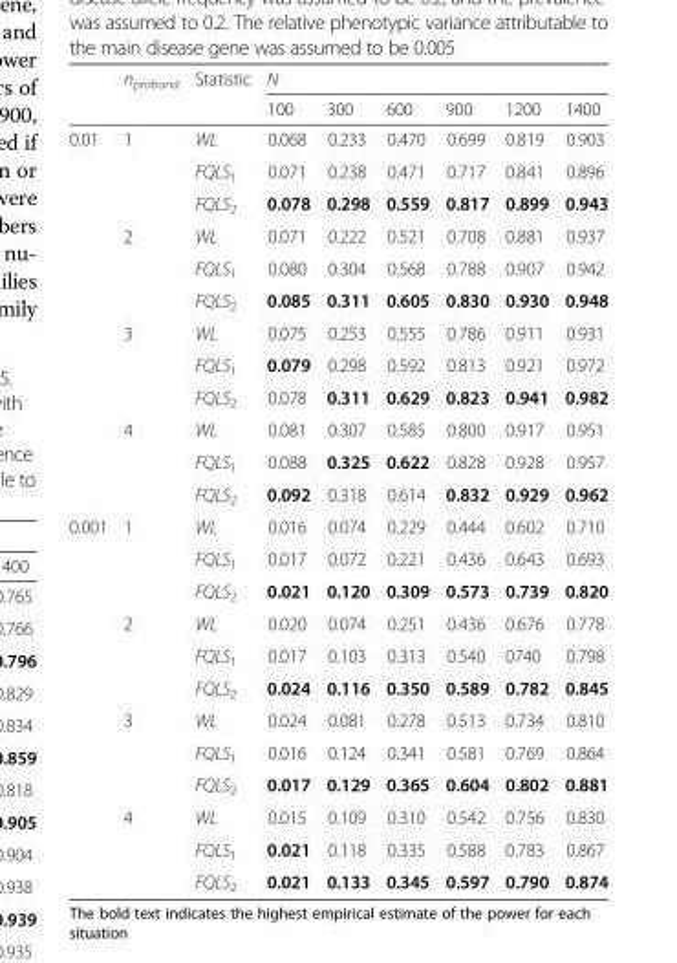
<table><thead><tr><td rowspan="2"></td><td rowspan="2">n<sub>proband</sub></td><td rowspan="2">Statistic</td><td colspan="6">N</td></tr><tr><td>100</td><td>300</td><td>600</td><td>900</td><td>1200</td><td>1400</td></tr></thead><tbody><tr><td rowspan="12">0.01</td><td rowspan="3">1</td><td>WL</td><td>0.068</td><td>0.233</td><td>0.470</td><td>0.699</td><td>0.819</td><td>0.903</td></tr><tr><td>FQLS<sub>1</sub></td><td>0.071</td><td>0.238</td><td>0.471</td><td>0.717</td><td>0.841</td><td>0.896</td></tr><tr><td>FQLS<sub>2</sub></td><td>0.078</td><td>0.298</td><td>0.559</td><td>0.817</td><td>0.899</td><td>0.943</td></tr><tr><td rowspan="3">2</td><td>WL</td><td>0.071</td><td>0.222</td><td>0.521</td><td>0.708</td><td>0.881</td><td>0.937</td></tr><tr><td>FQLS<sub>1</sub></td><td>0.080</td><td>0.304</td><td>0.568</td><td>0.788</td><td>0.907</td><td>0.942</td></tr><tr><td>FQLS<sub>2</sub></td><td>0.085</td><td>0.311</td><td>0.605</td><td>0.830</td><td>0.930</td><td>0.948</td></tr><tr><td rowspan="3">3</td><td>WL</td><td>0.075</td><td>0.253</td><td>0.555</td><td>0.786</td><td>0.911</td><td>0.931</td></tr><tr><td>FQLS<sub>1</sub></td><td>0.079</td><td>0.298</td><td>0.592</td><td>0.813</td><td>0.921</td><td>0.972</td></tr><tr><td>FQLS<sub>2</sub></td><td>0.078</td><td>0.311</td><td>0.629</td><td>0.823</td><td>0.941</td><td>0.982</td></tr><tr><td rowspan="3">4</td><td>WL</td><td>0.081</td><td>0.307</td><td>0.585</td><td>0.800</td><td>0.917</td><td>0.951</td></tr><tr><td>FQLS<sub>1</sub></td><td>0.088</td><td>0.325</td><td>0.622</td><td>0.828</td><td>0.928</td><td>0.957</td></tr><tr><td>FQLS<sub>2</sub></td><td>0.092</td><td>0.318</td><td>0.614</td><td>0.832</td><td>0.929</td><td>0.962</td></tr><tr><td rowspan="12">0.001</td><td rowspan="3">1</td><td>WL</td><td>0.016</td><td>0.074</td><td>0.229</td><td>0.444</td><td>0.602</td><td>0.710</td></tr><tr><td>FQLS<sub>1</sub></td><td>0.017</td><td>0.072</td><td>0.221</td><td>0.436</td><td>0.643</td><td>0.693</td></tr><tr><td>FQLS<sub>2</sub></td><td>0.021</td><td>0.120</td><td>0.309</td><td>0.573</td><td>0.739</td><td>0.820</td></tr><tr><td rowspan="3">2</td><td>WL</td><td>0.020</td><td>0.074</td><td>0.251</td><td>0.436</td><td>0.676</td><td>0.778</td></tr><tr><td>FQLS<sub>1</sub></td><td>0.017</td><td>0.103</td><td>0.313</td><td>0.540</td><td>0740</td><td>0.798</td></tr><tr><td>FQLS<sub>2</sub></td><td>0.024</td><td>0.116</td><td>0.350</td><td>0.589</td><td>0.782</td><td>0.845</td></tr><tr><td rowspan="3">3</td><td>WL</td><td>0.024</td><td>0.081</td><td>0.278</td><td>0.513</td><td>0.734</td><td>0.810</td></tr><tr><td>FQLS<sub>1</sub></td><td>0.016</td><td>0.124</td><td>0.341</td><td>0.581</td><td>0.769</td><td>0.864</td></tr><tr><td>FQLS<sub>2</sub></td><td>0.017</td><td>0.129</td><td>0.365</td><td>0.604</td><td>0.802</td><td>0.881</td></tr><tr><td rowspan="3">4</td><td>WL</td><td>0.015</td><td>0.109</td><td>0.310</td><td>0.542</td><td>0.756</td><td>0.830</td></tr><tr><td>FQLS<sub>1</sub></td><td>0.021</td><td>0.118</td><td>0.335</td><td>0.588</td><td>0.783</td><td>0.867</td></tr><tr><td>FQLS<sub>2</sub></td><td>0.021</td><td>0.133</td><td>0.345</td><td>0.597</td><td>0.790</td><td>0.874</td></tr></tbody></table>